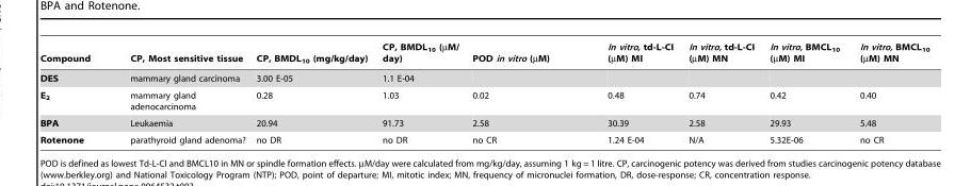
<table><thead><tr><td>Compound</td><td>CP, Most sensitive tissue</td><td>CP, BMDL<sub>10</sub> (mg/kg/day)</td><td>CP, BMDL<sub>10</sub> (µM/ day)</td><td>POD in vitro (µM)</td><td>In vitro, td-L-CI (µM) MI</td><td>In vitro, td-L-CI (µM) MN</td><td>In vitro, BMCL<sub>10</sub> (µM) MI</td><td>In vitro, BMCL<sub>10</sub> (µM) MN</td></tr></thead><tbody><tr><td>DES</td><td>mammary gland carcinoma</td><td>3.00 E-05</td><td>1.1 E-04</td><td></td><td></td><td></td><td></td><td></td></tr><tr><td>E<sub>2</sub></td><td>mammary gland adenocarcinoma</td><td>0.28</td><td>1.03</td><td>0.02</td><td>0.48</td><td>0.74</td><td>0.42</td><td>0.40</td></tr><tr><td>BPA</td><td>Leukaemia</td><td>20.94</td><td>91.73</td><td>2.58</td><td>30.39</td><td>2.58</td><td>29.93</td><td>5.48</td></tr><tr><td>Rotenone</td><td>parathyroid gland adenoma?</td><td>no DR</td><td>no DR</td><td>no CR</td><td>1.24 E-04</td><td>N/A</td><td>5.32E-06</td><td>no CR</td></tr></tbody></table>